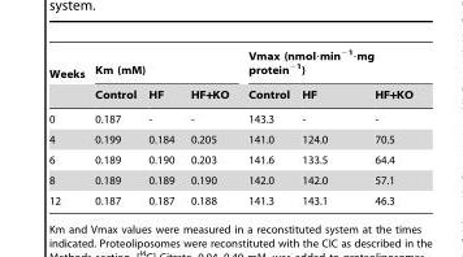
<table><thead><tr><td rowspan="2">Weeks</td><td colspan="3">Km (mM)</td><td colspan="3">Vmax (nmol·min<sup>−1</sup>·mg protein<sup>−1</sup>)</td></tr><tr><td>Control</td><td>HF</td><td>HF+KO</td><td>Control</td><td>HF</td><td>HF+KO</td></tr></thead><tbody><tr><td>0</td><td>0.187</td><td>-</td><td>-</td><td>143.3</td><td>-</td><td>-</td></tr><tr><td>4</td><td>0.199</td><td>0.184</td><td>0.205</td><td>141.0</td><td>124.0</td><td>70.5</td></tr><tr><td>6</td><td>0.189</td><td>0.190</td><td>0.203</td><td>141.6</td><td>133.5</td><td>64.4</td></tr><tr><td>8</td><td>0.189</td><td>0.189</td><td>0.190</td><td>142.0</td><td>142.0</td><td>57.1</td></tr><tr><td>12</td><td>0.187</td><td>0.187</td><td>0.188</td><td>141.3</td><td>143.1</td><td>46.3</td></tr></tbody></table>